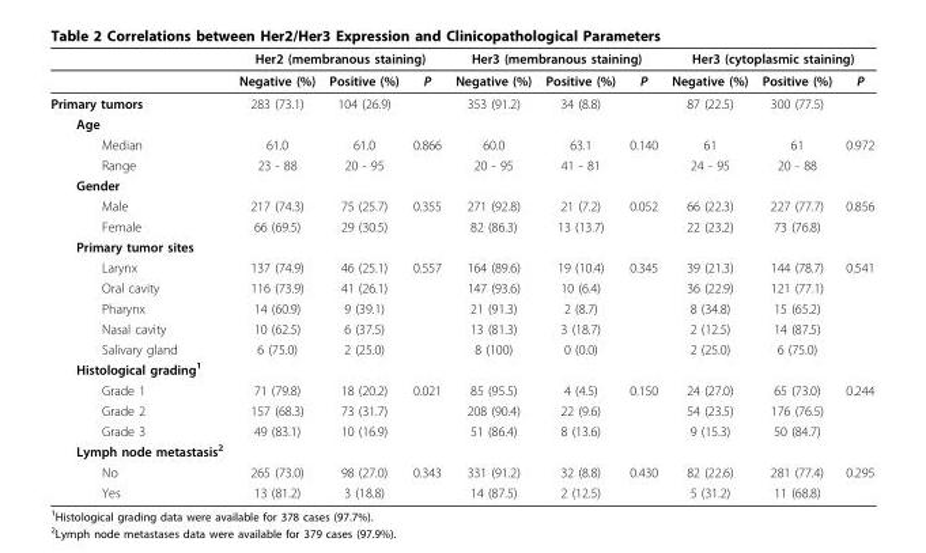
<table><thead><tr><td rowspan="2"></td><td colspan="3">Her2 (membranous staining)</td><td colspan="3">Her3 (membranous staining)</td><td colspan="3">Her3 (cytoplasmic staining)</td></tr><tr><td>Negative (%)</td><td>Positive (%)</td><td>P</td><td>Negative (%)</td><td>Positive (%)</td><td>P</td><td>Negative (%)</td><td>Positive (%)</td><td>P</td></tr></thead><tbody><tr><td>Primary tumors</td><td>283 (73.1)</td><td>104 (26.9)</td><td></td><td>353 (91.2)</td><td>34 (8.8)</td><td></td><td>87 (22.5)</td><td>300 (77.5)</td><td></td></tr><tr><td colspan="10">Age</td></tr><tr><td>Median</td><td>61.0</td><td>61.0</td><td>0.866</td><td>60.0</td><td>63.1</td><td>0.140</td><td>61</td><td>61</td><td>0.972</td></tr><tr><td>Range</td><td>23 - 88</td><td>20 - 95</td><td></td><td>20 - 95</td><td>41 - 81</td><td></td><td>24 - 95</td><td>20 - 88</td><td></td></tr><tr><td colspan="10">Gender</td></tr><tr><td>Male</td><td>217 (74.3)</td><td>75 (25.7)</td><td>0.355</td><td>271 (92.8)</td><td>21 (7.2)</td><td>0.052</td><td>66 (22.3)</td><td>227 (77.7)</td><td>0.856</td></tr><tr><td>Female</td><td>66 (69.5)</td><td>29 (30.5)</td><td></td><td>82 (86.3)</td><td>13 (13.7)</td><td></td><td>22 (23.2)</td><td>73 (76.8)</td><td></td></tr><tr><td colspan="10">Primary tumor sites</td></tr><tr><td>Larynx</td><td>137 (74.9)</td><td>46 (25.1)</td><td>0.557</td><td>164 (89.6)</td><td>19 (10.4)</td><td>0.345</td><td>39 (21.3)</td><td>144 (78.7)</td><td>0.541</td></tr><tr><td>Oral cavity</td><td>116 (73.9)</td><td>41 (26.1)</td><td></td><td>147 (93.6)</td><td>10 (6.4)</td><td></td><td>36 (22.9)</td><td>121 (77.1)</td><td></td></tr><tr><td>Pharynx</td><td>14 (60.9)</td><td>9 (39.1)</td><td></td><td>21 (91.3)</td><td>2 (8.7)</td><td></td><td>8 (34.8)</td><td>15 (65.2)</td><td></td></tr><tr><td>Nasal cavity</td><td>10 (62.5)</td><td>6 (37.5)</td><td></td><td>13 (81.3)</td><td>3 (18.7)</td><td></td><td>2 (12.5)</td><td>14 (87.5)</td><td></td></tr><tr><td>Salivary gland</td><td>6 (75.0)</td><td>2 (25.0)</td><td></td><td>8 (100)</td><td>0 (0.0)</td><td></td><td>2 (25.0)</td><td>6 (75.0)</td><td></td></tr><tr><td colspan="10">Histological grading<sup>1</sup></td></tr><tr><td>Grade 1</td><td>71 (79.8)</td><td>18 (20.2)</td><td>0.021</td><td>85 (95.5)</td><td>4 (4.5)</td><td>0.150</td><td>24 (27.0)</td><td>65 (73.0)</td><td>0.244</td></tr><tr><td>Grade 2</td><td>157 (68.3)</td><td>73 (31.7)</td><td></td><td>208 (90.4)</td><td>22 (9.6)</td><td></td><td>54 (23.5)</td><td>176 (76.5)</td><td></td></tr><tr><td>Grade 3</td><td>49 (83.1)</td><td>10 (16.9)</td><td></td><td>51 (86.4)</td><td>8 (13.6)</td><td></td><td>9 (15.3)</td><td>50 (84.7)</td><td></td></tr><tr><td colspan="10">Lymph node metastasis<sup>2</sup></td></tr><tr><td>No</td><td>265 (73.0)</td><td>98 (27.0)</td><td>0.343</td><td>331 (91.2)</td><td>32 (8.8)</td><td>0.430</td><td>82 (22.6)</td><td>281 (77.4)</td><td>0.295</td></tr><tr><td>Yes</td><td>13 (81.2)</td><td>3 (18.8)</td><td></td><td>14 (87.5)</td><td>2 (12.5)</td><td></td><td>5 (31.2)</td><td>11 (68.8)</td><td></td></tr></tbody></table>